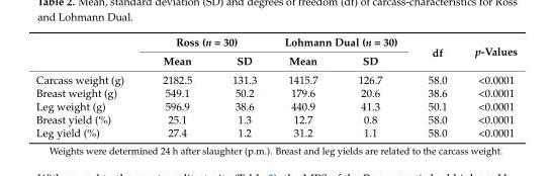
<table><thead><tr><td rowspan="2"></td><td colspan="2">Ross (n = 30)</td><td colspan="2">Lohmann Dual (n = 30)</td><td rowspan="2">df</td><td rowspan="2">p-Values</td></tr><tr><td>Mean</td><td>SD</td><td>Mean</td><td>SD</td></tr></thead><tbody><tr><td>Carcass weight (g)</td><td>2182.5</td><td>131.3</td><td>1415.7</td><td>126.7</td><td>58.0</td><td>&lt;0.0001</td></tr><tr><td>Breast weight (g)</td><td>549.1</td><td>50.2</td><td>179.6</td><td>20.6</td><td>38.6</td><td>&lt;0.0001</td></tr><tr><td>Leg weight (g)</td><td>596.9</td><td>38.6</td><td>440.9</td><td>41.3</td><td>50.1</td><td>&lt;0.0001</td></tr><tr><td>Breast yield (%)</td><td>25.1</td><td>1.3</td><td>12.7</td><td>0.8</td><td>58.0</td><td>&lt;0.0001</td></tr><tr><td>Leg yield (%)</td><td>27.4</td><td>1.2</td><td>31.2</td><td>1.1</td><td>58.0</td><td>&lt;0.0001</td></tr></tbody></table>